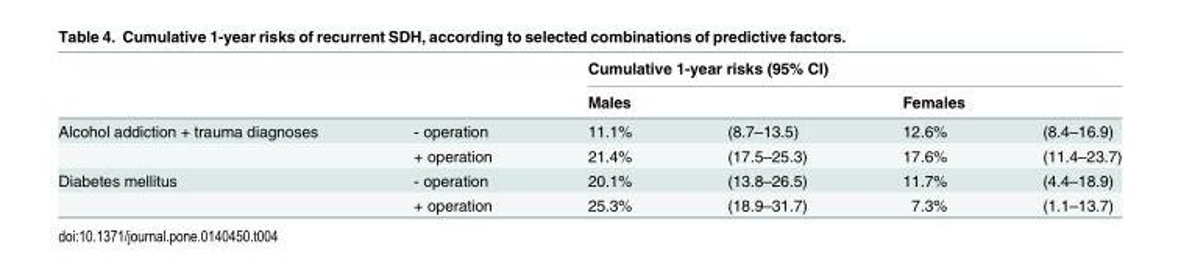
<table><thead><tr><td rowspan="3">Alcohol addiction + trauma diagnoses</td><td rowspan="3">- operation</td><td colspan="4">Cumulative 1-year risks (95% CI)</td></tr><tr><td colspan="2">Males</td><td colspan="2">Females</td></tr><tr><td>11.1%</td><td>(8.7–13.5)</td><td>12.6%</td><td>(8.4–16.9)</td></tr></thead><tbody><tr><td></td><td>+ operation</td><td>21.4%</td><td>(17.5–25.3)</td><td>17.6%</td><td>(11.4–23.7)</td></tr><tr><td rowspan="2">Diabetes mellitus</td><td>- operation</td><td>20.1%</td><td>(13.8–26.5)</td><td>11.7%</td><td>(4.4–18.9)</td></tr><tr><td>+ operation</td><td>25.3%</td><td>(18.9–31.7)</td><td>7.3%</td><td>(1.1–13.7)</td></tr></tbody></table>